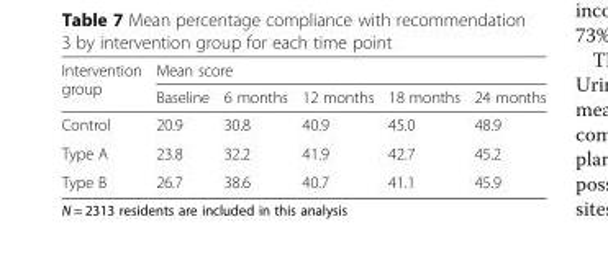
<table><thead><tr><td rowspan="2">Intervention group</td><td colspan="5">Mean score</td></tr><tr><td>Baseline</td><td>6 months</td><td>12 months</td><td>18 months</td><td>24 months</td></tr></thead><tbody><tr><td>Control</td><td>20.9</td><td>30.8</td><td>40.9</td><td>45.0</td><td>48.9</td></tr><tr><td>Type A</td><td>23.8</td><td>32.2</td><td>41.9</td><td>42.7</td><td>45.2</td></tr><tr><td>Type B</td><td>26.7</td><td>38.6</td><td>40.7</td><td>41.1</td><td>45.9</td></tr></tbody></table>